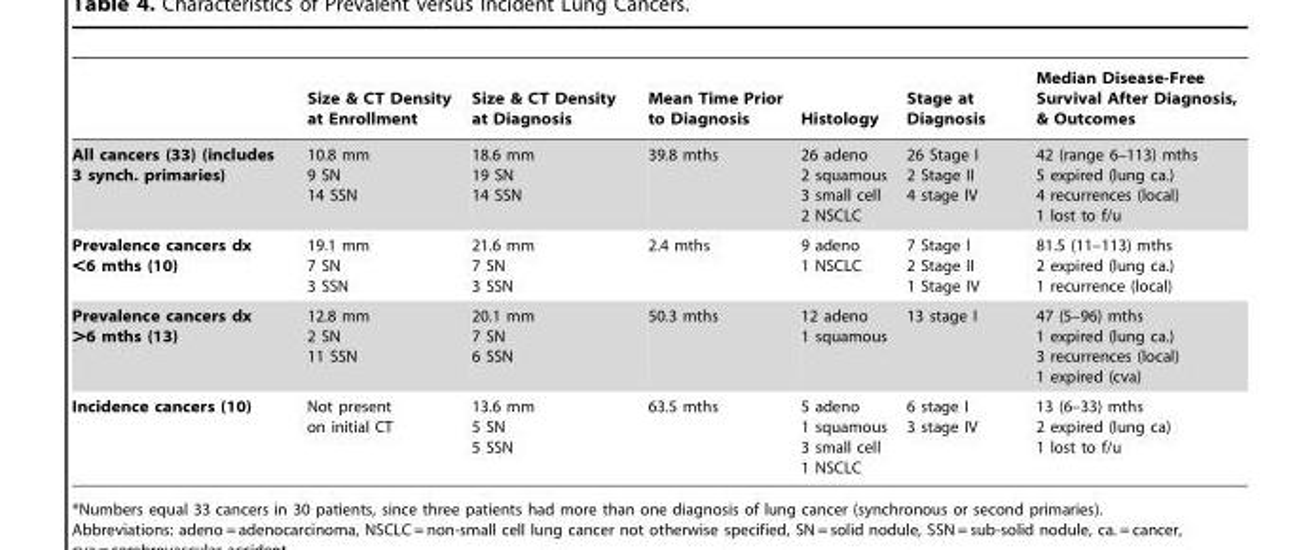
<table><thead><tr><td></td><td>Size &amp; CT Density at Enrollment</td><td>Size &amp; CT Density at Diagnosis</td><td>Mean Time Prior to Diagnosis</td><td>Histology</td><td>Stage at Diagnosis</td><td>Median Disease-Free Survival After Diagnosis, &amp; Outcomes</td></tr></thead><tbody><tr><td>All cancers (33) (includes 3 synch. primaries)</td><td>10.8 mm 9 SN 14 SSN</td><td>18.6 mm 19 SN 14 SSN</td><td>39.8 mths</td><td>26 adeno 2 squamous 3 small cell 2 NSCLC</td><td>26 Stage I 2 Stage II 4 stage IV</td><td>42 (range 6–113) mths 5 expired (lung ca.) 4 recurrences (local) 1 lost to f/u</td></tr><tr><td>Prevalence cancers dx &lt;6 mths (10)</td><td>19.1 mm 7 SN 3 SSN</td><td>21.6 mm 7 SN 3 SSN</td><td>2.4 mths</td><td>9 adeno 1 NSCLC</td><td>7 Stage I 2 Stage II 1 Stage IV</td><td>81.5 (11–113) mths 2 expired (lung ca.) 1 recurrence (local)</td></tr><tr><td>Prevalence cancers dx &gt;6 mths (13)</td><td>12.8 mm 2 SN 11 SSN</td><td>20.1 mm 7 SN 6 SSN</td><td>50.3 mths</td><td>12 adeno 1 squamous</td><td>13 stage I</td><td>47 (5–96) mths 1 expired (lung ca.) 3 recurrences (local) 1 expired (cva)</td></tr><tr><td>Incidence cancers (10)</td><td>Not present on initial CT</td><td>13.6 mm 5 SN 5 SSN</td><td>63.5 mths</td><td>5 adeno 1 squamous 3 small cell 1 NSCLC</td><td>6 stage I 3 stage IV</td><td>13 (6–33) mths 2 expired (lung ca) 1 lost to f/u</td></tr></tbody></table>